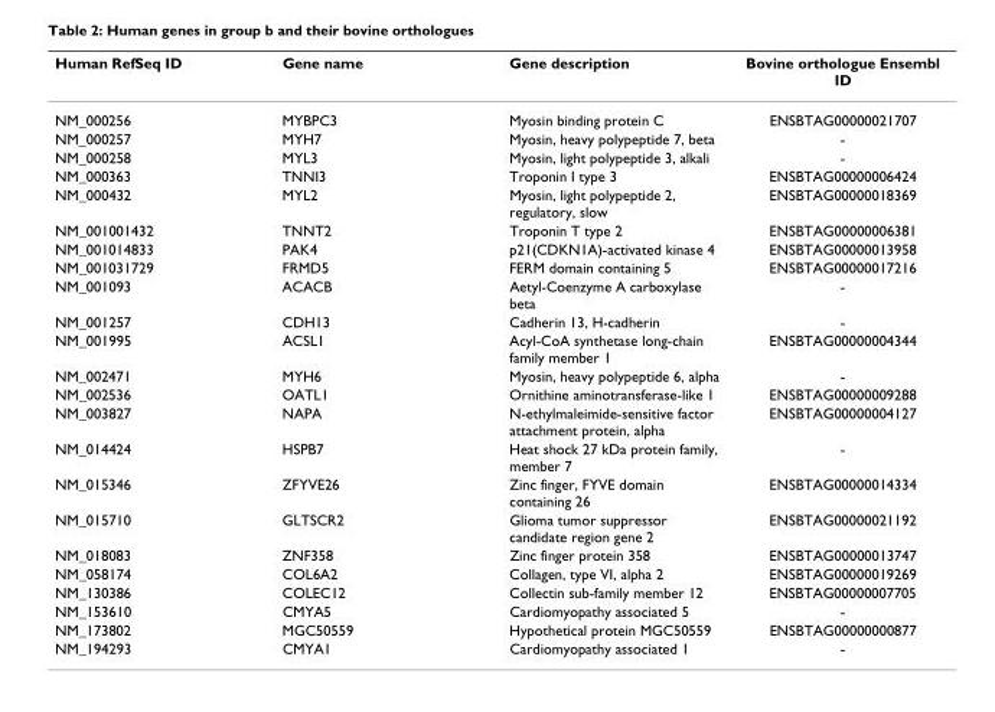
<table><thead><tr><td>Human RefSeq ID</td><td>Gene name</td><td>Gene description</td><td>Bovine orthologue Ensembl ID</td></tr></thead><tbody><tr><td>NM_000256</td><td>MYBPC3</td><td>Myosin binding protein C</td><td>ENSBTAG00000021707</td></tr><tr><td>NM_000257</td><td>MYH7</td><td>Myosin, heavy polypeptide 7, beta</td><td>-</td></tr><tr><td>NM_000258</td><td>MYL3</td><td>Myosin, light polypeptide 3, alkali</td><td>-</td></tr><tr><td>NM_000363</td><td>TNNI3</td><td>Troponin I type 3</td><td>ENSBTAG00000006424</td></tr><tr><td>NM_000432</td><td>MYL2</td><td>Myosin, light polypeptide 2, regulatory, slow</td><td>ENSBTAG00000018369</td></tr><tr><td>NM_001001432</td><td>TNNT2</td><td>Troponin T type 2</td><td>ENSBTAG00000006381</td></tr><tr><td>NM_001014833</td><td>PAK4</td><td>p21(CDKN1A)-activated kinase 4</td><td>ENSBTAG00000013958</td></tr><tr><td>NM_001031729</td><td>FRMD5</td><td>FERM domain containing 5</td><td>ENSBTAG00000017216</td></tr><tr><td>NM_001093</td><td>ACACB</td><td>Aetyl-Coenzyme A carboxylase beta</td><td>-</td></tr><tr><td>NM_001257</td><td>CDH13</td><td>Cadherin 13, H-cadherin</td><td>-</td></tr><tr><td>NM_001995</td><td>ACSL1</td><td>Acyl-CoA synthetase long-chain family member 1</td><td>ENSBTAG00000004344</td></tr><tr><td>NM_002471</td><td>MYH6</td><td>Myosin, heavy polypeptide 6, alpha</td><td>-</td></tr><tr><td>NM_002536</td><td>OATL1</td><td>Ornithine aminotransferase-like 1</td><td>ENSBTAG00000009288</td></tr><tr><td>NM_003827</td><td>NAPA</td><td>N-ethylmaleimide-sensitive factor attachment protein, alpha</td><td>ENSBTAG00000004127</td></tr><tr><td>NM_014424</td><td>HSPB7</td><td>Heat shock 27 kDa protein family, member 7</td><td>-</td></tr><tr><td>NM_015346</td><td>ZFYVE26</td><td>Zinc finger, FYVE domain containing 26</td><td>ENSBTAG00000014334</td></tr><tr><td>NM_015710</td><td>GLTSCR2</td><td>Glioma tumor suppressor candidate region gene 2</td><td>ENSBTAG00000021192</td></tr><tr><td>NM_018083</td><td>ZNF358</td><td>Zinc finger protein 358</td><td>ENSBTAG00000013747</td></tr><tr><td>NM_058174</td><td>COL6A2</td><td>Collagen, type VI, alpha 2</td><td>ENSBTAG00000019269</td></tr><tr><td>NM_130386</td><td>COLEC12</td><td>Collectin sub-family member 12</td><td>ENSBTAG00000007705</td></tr><tr><td>NM_153610</td><td>CMYA5</td><td>Cardiomyopathy associated 5</td><td>-</td></tr><tr><td>NM_173802</td><td>MGC50559</td><td>Hypothetical protein MGC50559</td><td>ENSBTAG00000000877</td></tr><tr><td>NM_194293</td><td>CMYA1</td><td>Cardiomyopathy associated 1</td><td>-</td></tr></tbody></table>